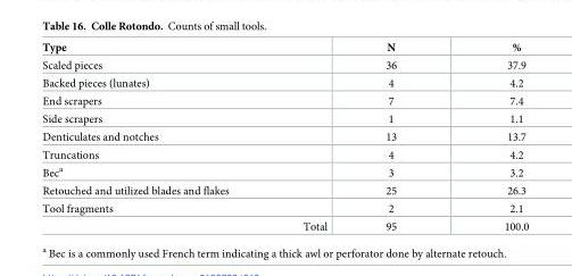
<table><thead><tr><td>Type</td><td>N</td><td>%</td></tr></thead><tbody><tr><td>Scaled pieces</td><td>36</td><td>37.9</td></tr><tr><td>Backed pieces (lunates)</td><td>4</td><td>4.2</td></tr><tr><td>End scrapers</td><td>7</td><td>7.4</td></tr><tr><td>Side scrapers</td><td>1</td><td>1.1</td></tr><tr><td>Denticulates and notches</td><td>13</td><td>13.7</td></tr><tr><td>Truncations</td><td>4</td><td>4.2</td></tr><tr><td>Bec<sup>a</sup></td><td>3</td><td>3.2</td></tr><tr><td>Retouched and utilized blades and flakes</td><td>25</td><td>26.3</td></tr><tr><td>Tool fragments</td><td>2</td><td>2.1</td></tr><tr><td>Total</td><td>95</td><td>100.0</td></tr></tbody></table>